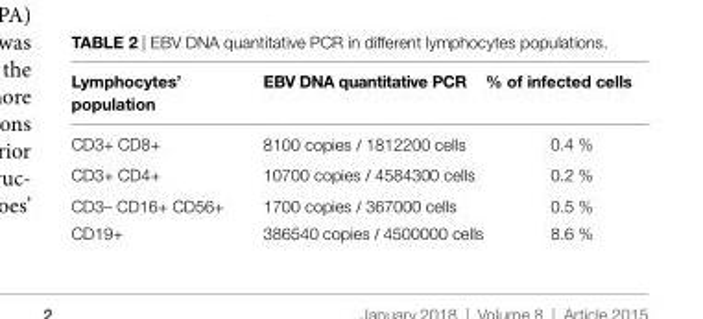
<table><thead><tr><td>lymphocytes’ population</td><td>eBV DNa quantitative pCR</td><td>% of infected cells</td></tr></thead><tbody><tr><td>CD3+ CD8+</td><td>8100 copies / 1812200 cells</td><td>0.4 %</td></tr><tr><td>CD3+ CD4+</td><td>10700 copies / 4584300 cells</td><td>0.2 %</td></tr><tr><td>CD3– CD16+ CD56+</td><td>1700 copies / 367000 cells</td><td>0.5 %</td></tr><tr><td>CD19+</td><td>386540 copies / 4500000 cells</td><td>8.6 %</td></tr></tbody></table>